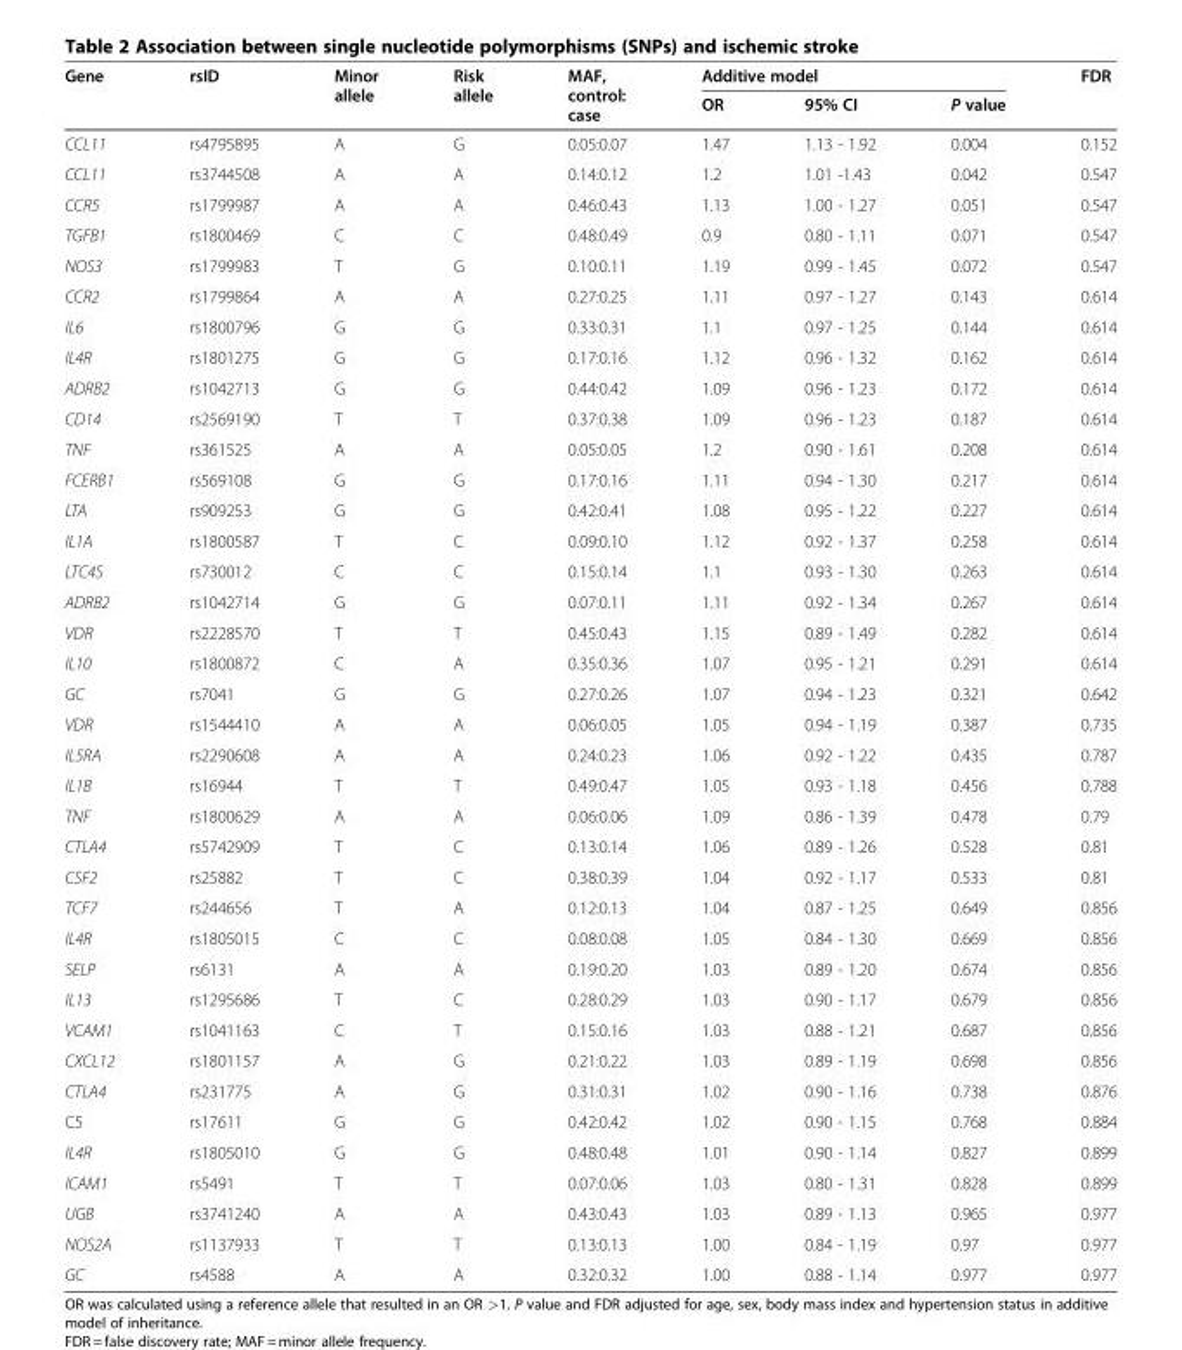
<table><thead><tr><td rowspan="2">Gene</td><td rowspan="2">rsID</td><td rowspan="2">Minor allele</td><td rowspan="2">Risk allele</td><td rowspan="2">MAF, control: case</td><td colspan="3">Additive model</td><td rowspan="2">FDR</td></tr><tr><td>OR</td><td>95% CI</td><td>P value</td></tr></thead><tbody><tr><td>CCL11</td><td>rs4795895</td><td>A</td><td>G</td><td>0.05:0.07</td><td>1.47</td><td>1.13 - 1.92</td><td>0.004</td><td>0.152</td></tr><tr><td>CCL11</td><td>rs3744508</td><td>A</td><td>A</td><td>0.14:0.12</td><td>1.2</td><td>1.01 -1.43</td><td>0.042</td><td>0.547</td></tr><tr><td>CCR5</td><td>rs1799987</td><td>A</td><td>A</td><td>0.46:0.43</td><td>1.13</td><td>1.00 - 1.27</td><td>0.051</td><td>0.547</td></tr><tr><td>TGFB1</td><td>rs1800469</td><td>C</td><td>C</td><td>0.48:0.49</td><td>0.9</td><td>0.80 - 1.11</td><td>0.071</td><td>0.547</td></tr><tr><td>NOS3</td><td>rs1799983</td><td>T</td><td>G</td><td>0.10:0.11</td><td>1.19</td><td>0.99 - 1.45</td><td>0.072</td><td>0.547</td></tr><tr><td>CCR2</td><td>rs1799864</td><td>A</td><td>A</td><td>0.27:0.25</td><td>1.11</td><td>0.97 - 1.27</td><td>0.143</td><td>0.614</td></tr><tr><td>IL6</td><td>rs1800796</td><td>G</td><td>G</td><td>0.33:0.31</td><td>1.1</td><td>0.97 - 1.25</td><td>0.144</td><td>0.614</td></tr><tr><td>IL4R</td><td>rs1801275</td><td>G</td><td>G</td><td>0.17:0.16</td><td>1.12</td><td>0.96 - 1.32</td><td>0.162</td><td>0.614</td></tr><tr><td>ADRB2</td><td>rs1042713</td><td>G</td><td>G</td><td>0.44:0.42</td><td>1.09</td><td>0.96 - 1.23</td><td>0.172</td><td>0.614</td></tr><tr><td>CD14</td><td>rs2569190</td><td>T</td><td>T</td><td>0.37:0.38</td><td>1.09</td><td>0.96 - 1.23</td><td>0.187</td><td>0.614</td></tr><tr><td>TNF</td><td>rs361525</td><td>A</td><td>A</td><td>0.05:0.05</td><td>1.2</td><td>0.90 - 1.61</td><td>0.208</td><td>0.614</td></tr><tr><td>FCERB1</td><td>rs569108</td><td>G</td><td>G</td><td>0.17:0.16</td><td>1.11</td><td>0.94 - 1.30</td><td>0.217</td><td>0.614</td></tr><tr><td>LTA</td><td>rs909253</td><td>G</td><td>G</td><td>0.42:0.41</td><td>1.08</td><td>0.95 - 1.22</td><td>0.227</td><td>0.614</td></tr><tr><td>IL1A</td><td>rs1800587</td><td>T</td><td>C</td><td>0.09:0.10</td><td>1.12</td><td>0.92 - 1.37</td><td>0.258</td><td>0.614</td></tr><tr><td>LTC4S</td><td>rs730012</td><td>C</td><td>C</td><td>0.15:0.14</td><td>1.1</td><td>0.93 - 1.30</td><td>0.263</td><td>0.614</td></tr><tr><td>ADRB2</td><td>rs1042714</td><td>G</td><td>G</td><td>0.07:0.11</td><td>1.11</td><td>0.92 - 1.34</td><td>0.267</td><td>0.614</td></tr><tr><td>VDR</td><td>rs2228570</td><td>T</td><td>T</td><td>0.45:0.43</td><td>1.15</td><td>0.89 - 1.49</td><td>0.282</td><td>0.614</td></tr><tr><td>IL10</td><td>rs1800872</td><td>C</td><td>A</td><td>0.35:0.36</td><td>1.07</td><td>0.95 - 1.21</td><td>0.291</td><td>0.614</td></tr><tr><td>GC</td><td>rs7041</td><td>G</td><td>G</td><td>0.27:0.26</td><td>1.07</td><td>0.94 - 1.23</td><td>0.321</td><td>0.642</td></tr><tr><td>VDR</td><td>rs1544410</td><td>A</td><td>A</td><td>0.06:0.05</td><td>1.05</td><td>0.94 - 1.19</td><td>0.387</td><td>0.735</td></tr><tr><td>IL5RA</td><td>rs2290608</td><td>A</td><td>A</td><td>0.24:0.23</td><td>1.06</td><td>0.92 - 1.22</td><td>0.435</td><td>0.787</td></tr><tr><td>IL1B</td><td>rs16944</td><td>T</td><td>T</td><td>0.49:0.47</td><td>1.05</td><td>0.93 - 1.18</td><td>0.456</td><td>0.788</td></tr><tr><td>TNF</td><td>rs1800629</td><td>A</td><td>A</td><td>0.06:0.06</td><td>1.09</td><td>0.86 - 1.39</td><td>0.478</td><td>0.79</td></tr><tr><td>CTLA4</td><td>rs5742909</td><td>T</td><td>C</td><td>0.13:0.14</td><td>1.06</td><td>0.89 - 1.26</td><td>0.528</td><td>0.81</td></tr><tr><td>CSF2</td><td>rs25882</td><td>T</td><td>C</td><td>0.38:0.39</td><td>1.04</td><td>0.92 - 1.17</td><td>0.533</td><td>0.81</td></tr><tr><td>TCF7</td><td>rs244656</td><td>T</td><td>A</td><td>0.12:0.13</td><td>1.04</td><td>0.87 - 1.25</td><td>0.649</td><td>0.856</td></tr><tr><td>IL4R</td><td>rs1805015</td><td>C</td><td>C</td><td>0.08:0.08</td><td>1.05</td><td>0.84 - 1.30</td><td>0.669</td><td>0.856</td></tr><tr><td>SELP</td><td>rs6131</td><td>A</td><td>A</td><td>0.19:0.20</td><td>1.03</td><td>0.89 - 1.20</td><td>0.674</td><td>0.856</td></tr><tr><td>IL13</td><td>rs1295686</td><td>T</td><td>C</td><td>0.28:0.29</td><td>1.03</td><td>0.90 - 1.17</td><td>0.679</td><td>0.856</td></tr><tr><td>VCAM1</td><td>rs1041163</td><td>C</td><td>T</td><td>0.15:0.16</td><td>1.03</td><td>0.88 - 1.21</td><td>0.687</td><td>0.856</td></tr><tr><td>CXCL12</td><td>rs1801157</td><td>A</td><td>G</td><td>0.21:0.22</td><td>1.03</td><td>0.89 - 1.19</td><td>0.698</td><td>0.856</td></tr><tr><td>CTLA4</td><td>rs231775</td><td>A</td><td>G</td><td>0.31:0.31</td><td>1.02</td><td>0.90 - 1.16</td><td>0.738</td><td>0.876</td></tr><tr><td>C5</td><td>rs17611</td><td>G</td><td>G</td><td>0.42:0.42</td><td>1.02</td><td>0.90 - 1.15</td><td>0.768</td><td>0.884</td></tr><tr><td>IL4R</td><td>rs1805010</td><td>G</td><td>G</td><td>0.48:0.48</td><td>1.01</td><td>0.90 - 1.14</td><td>0.827</td><td>0.899</td></tr><tr><td>ICAM1</td><td>rs5491</td><td>T</td><td>T</td><td>0.07:0.06</td><td>1.03</td><td>0.80 - 1.31</td><td>0.828</td><td>0.899</td></tr><tr><td>UGB</td><td>rs3741240</td><td>A</td><td>A</td><td>0.43:0.43</td><td>1.03</td><td>0.89 - 1.13</td><td>0.965</td><td>0.977</td></tr><tr><td>NOS2A</td><td>rs1137933</td><td>T</td><td>T</td><td>0.13:0.13</td><td>1.00</td><td>0.84 - 1.19</td><td>0.97</td><td>0.977</td></tr><tr><td>GC</td><td>rs4588</td><td>A</td><td>A</td><td>0.32:0.32</td><td>1.00</td><td>0.88 - 1.14</td><td>0.977</td><td>0.977</td></tr></tbody></table>